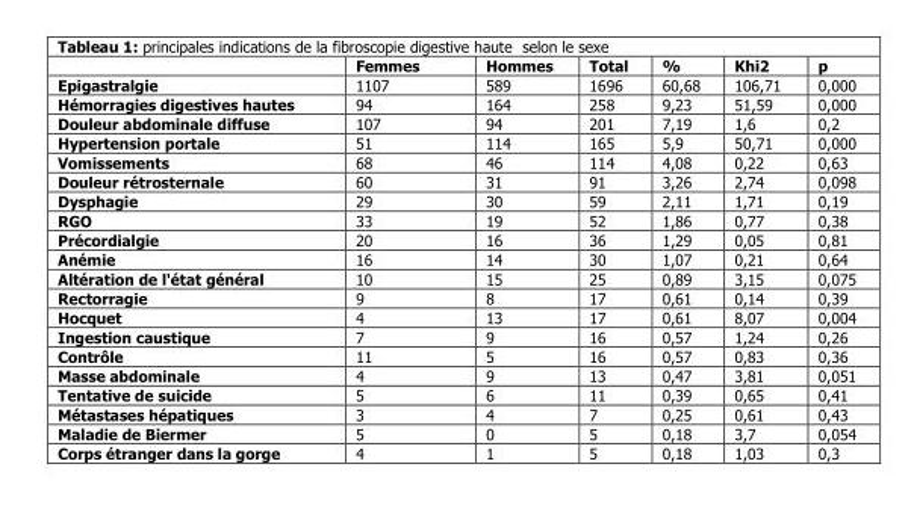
<table><thead><tr><td></td><td>Femmes</td><td>Hommes</td><td>Total</td><td>%</td><td>Khi2</td><td>p</td></tr></thead><tbody><tr><td>Epigastralgie</td><td>1107</td><td>589</td><td>1696</td><td>60,68</td><td>106,71</td><td>0,000</td></tr><tr><td>Hémorragies digestives hautes</td><td>94</td><td>164</td><td>258</td><td>9,23</td><td>51,59</td><td>0,000</td></tr><tr><td>Douleur abdominale diffuse</td><td>107</td><td>94</td><td>201</td><td>7,19</td><td>1,6</td><td>0,2</td></tr><tr><td>Hypertension portale</td><td>51</td><td>114</td><td>165</td><td>5,9</td><td>50,71</td><td>0,000</td></tr><tr><td>Vomissements</td><td>68</td><td>46</td><td>114</td><td>4,08</td><td>0,22</td><td>0,63</td></tr><tr><td>Douleur rétrosternale</td><td>60</td><td>31</td><td>91</td><td>3,26</td><td>2,74</td><td>0,098</td></tr><tr><td>Dysphagie</td><td>29</td><td>30</td><td>59</td><td>2,11</td><td>1,71</td><td>0,19</td></tr><tr><td>RGO</td><td>33</td><td>19</td><td>52</td><td>1,86</td><td>0,77</td><td>0,38</td></tr><tr><td>Précordialgie</td><td>20</td><td>16</td><td>36</td><td>1,29</td><td>0,05</td><td>0,81</td></tr><tr><td>Anémie</td><td>16</td><td>14</td><td>30</td><td>1,07</td><td>0,21</td><td>0,64</td></tr><tr><td>Altération de l&#x27;état général</td><td>10</td><td>15</td><td>25</td><td>0,89</td><td>3,15</td><td>0,075</td></tr><tr><td>Rectorragie</td><td>9</td><td>8</td><td>17</td><td>0,61</td><td>0,14</td><td>0,39</td></tr><tr><td>Hocquet</td><td>4</td><td>13</td><td>17</td><td>0,61</td><td>8,07</td><td>0,004</td></tr><tr><td>Ingestion caustique</td><td>7</td><td>9</td><td>16</td><td>0,57</td><td>1,24</td><td>0,26</td></tr><tr><td>Contrôle</td><td>11</td><td>5</td><td>16</td><td>0,57</td><td>0,83</td><td>0,36</td></tr><tr><td>Masse abdominale</td><td>4</td><td>9</td><td>13</td><td>0,47</td><td>3,81</td><td>0,051</td></tr><tr><td>Tentative de suicide</td><td>5</td><td>6</td><td>11</td><td>0,39</td><td>0,65</td><td>0,41</td></tr><tr><td>Métastases hépatiques</td><td>3</td><td>4</td><td>7</td><td>0,25</td><td>0,61</td><td>0,43</td></tr><tr><td>Maladie de Biermer</td><td>5</td><td>0</td><td>5</td><td>0,18</td><td>3,7</td><td>0,054</td></tr><tr><td>Corps étranger dans la gorge</td><td>4</td><td>1</td><td>5</td><td>0,18</td><td>1,03</td><td>0,3</td></tr></tbody></table>